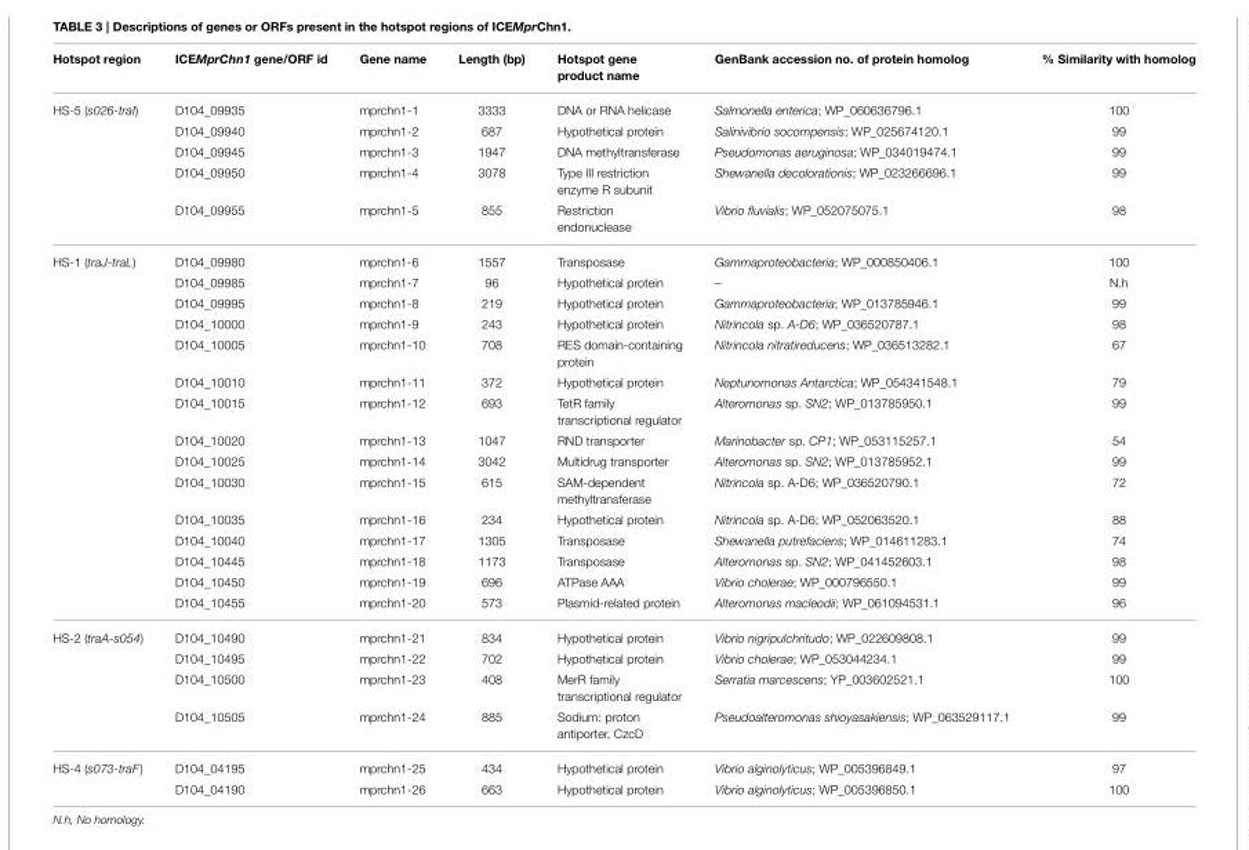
<table><thead><tr><td>Hotspot region</td><td>ICEMprChn1 gene/ORF id</td><td>Gene name</td><td>Length (bp)</td><td>Hotspot gene product name</td><td>GenBank accession no. of protein homolog</td><td>% Similarity with homolog</td></tr></thead><tbody><tr><td rowspan="5">HS-5 (s026-traI)</td><td>D104_09935</td><td>mprchn1-1</td><td>3333</td><td>DNA or RNA helicase</td><td>Salmonella enterica; WP_060636796.1</td><td>100</td></tr><tr><td>D104_09940</td><td>mprchn1-2</td><td>687</td><td>Hypothetical protein</td><td>Salinivibrio socompensis; WP_025674120.1</td><td>99</td></tr><tr><td>D104_09945</td><td>mprchn1-3</td><td>1947</td><td>DNA methyltransferase</td><td>Pseudomonas aeruginosa; WP_034019474.1</td><td>99</td></tr><tr><td>D104_09950</td><td>mprchn1-4</td><td>3078</td><td>Type III restriction enzyme R subunit</td><td>Shewanella decolorationis; WP_023266696.1</td><td>99</td></tr><tr><td>D104_09955</td><td>mprchn1-5</td><td>855</td><td>Restriction endonuclease</td><td>Vibrio fluvialis; WP_052075075.1</td><td>98</td></tr><tr><td rowspan="15">HS-1 (traJ-traL)</td><td>D104_09980</td><td>mprchn1-6</td><td>1557</td><td>Transposase</td><td>Gammaproteobacteria; WP_000850406.1</td><td>100</td></tr><tr><td>D104_09985</td><td>mprchn1-7</td><td>96</td><td>Hypothetical protein</td><td>–</td><td>N.h</td></tr><tr><td>D104_09995</td><td>mprchn1-8</td><td>219</td><td>Hypothetical protein</td><td>Gammaproteobacteria; WP_013785946.1</td><td>99</td></tr><tr><td>D104_10000</td><td>mprchn1-9</td><td>243</td><td>Hypothetical protein</td><td>Nitrincola sp. A-D6; WP_036520787.1</td><td>98</td></tr><tr><td>D104_10005</td><td>mprchn1-10</td><td>708</td><td>RES domain-containing protein</td><td>Nitrincola nitratireducens; WP_036513282.1</td><td>67</td></tr><tr><td>D104_10010</td><td>mprchn1-11</td><td>372</td><td>Hypothetical protein</td><td>Neptunomonas Antarctica; WP_054341548.1</td><td>79</td></tr><tr><td>D104_10015</td><td>mprchn1-12</td><td>693</td><td>TetR family transcriptional regulator</td><td>Alteromonas sp. SN2; WP_013785950.1</td><td>99</td></tr><tr><td>D104_10020</td><td>mprchn1-13</td><td>1047</td><td>RND transporter</td><td>Marinobacter sp. CP1; WP_053115257.1</td><td>54</td></tr><tr><td>D104_10025</td><td>mprchn1-14</td><td>3042</td><td>Multidrug transporter</td><td>Alteromonas sp. SN2; WP_013785952.1</td><td>99</td></tr><tr><td>D104_10030</td><td>mprchn1-15</td><td>615</td><td>SAM-dependent methyltransferase</td><td>Nitrincola sp. A-D6; WP_036520790.1</td><td>72</td></tr><tr><td>D104_10035</td><td>mprchn1-16</td><td>234</td><td>Hypothetical protein</td><td>Nitrincola sp. A-D6; WP_052063520.1</td><td>88</td></tr><tr><td>D104_10040</td><td>mprchn1-17</td><td>1305</td><td>Transposase</td><td>Shewanella putrefaciens; WP_014611283.1</td><td>74</td></tr><tr><td>D104_10445</td><td>mprchn1-18</td><td>1173</td><td>Transposase</td><td>Alteromonas sp. SN2; WP_041452603.1</td><td>98</td></tr><tr><td>D104_10450</td><td>mprchn1-19</td><td>696</td><td>ATPase AAA</td><td>Vibrio cholerae; WP_000796550.1</td><td>99</td></tr><tr><td>D104_10455</td><td>mprchn1-20</td><td>573</td><td>Plasmid-related protein</td><td>Alteromonas macleodii; WP_061094531.1</td><td>96</td></tr><tr><td rowspan="4">HS-2 (traA-s054)</td><td>D104_10490</td><td>mprchn1-21</td><td>834</td><td>Hypothetical protein</td><td>Vibrio nigripulchritudo; WP_022609808.1</td><td>99</td></tr><tr><td>D104_10495</td><td>mprchn1-22</td><td>702</td><td>Hypothetical protein</td><td>Vibrio cholerae; WP_053044234.1</td><td>99</td></tr><tr><td>D104_10500</td><td>mprchn1-23</td><td>408</td><td>MerR family transcriptional regulator</td><td>Serratia marcescens; YP_003602521.1</td><td>100</td></tr><tr><td>D104_10505</td><td>mprchn1-24</td><td>885</td><td>Sodium: proton antiporter, CzcD</td><td>Pseudoalteromonas shioyasakiensis; WP_063529117.1</td><td>99</td></tr><tr><td rowspan="2">HS-4 (s073-traF)</td><td>D104_04195</td><td>mprchn1-25</td><td>434</td><td>Hypothetical protein</td><td>Vibrio alginolyticus; WP_005396849.1</td><td>97</td></tr><tr><td>D104_04190</td><td>mprchn1-26</td><td>663</td><td>Hypothetical protein</td><td>Vibrio alginolyticus; WP_005396850.1</td><td>100</td></tr></tbody></table>